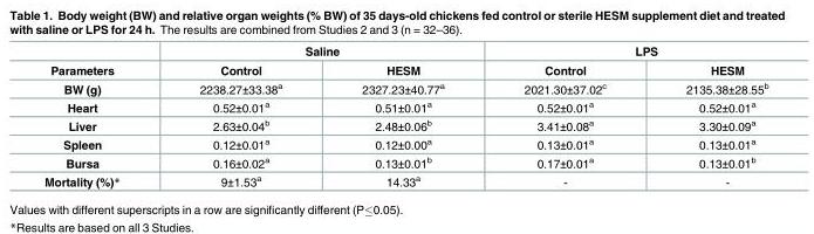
<table><thead><tr><td rowspan="2">Parameters</td><td colspan="2">Saline</td><td colspan="2">LPS</td></tr><tr><td>Control</td><td>HESM</td><td>Control</td><td>HESM</td></tr></thead><tbody><tr><td>BW (g)</td><td>2238.27±33.38<sup>a</sup></td><td>2327.23±40.77<sup>a</sup></td><td>2021.30±37.02<sup>c</sup></td><td>2135.38±28.55<sup>b</sup></td></tr><tr><td>Heart</td><td>0.52±0.01<sup>a</sup></td><td>0.51±0.01<sup>a</sup></td><td>0.52±0.01<sup>a</sup></td><td>0.52±0.01<sup>a</sup></td></tr><tr><td>Liver</td><td>2.63±0.04<sup>b</sup></td><td>2.48±0.06<sup>b</sup></td><td>3.41±0.08<sup>a</sup></td><td>3.30±0.09<sup>a</sup></td></tr><tr><td>Spleen</td><td>0.12±0.01<sup>a</sup></td><td>0.12±0.00<sup>a</sup></td><td>0.13±0.01<sup>a</sup></td><td>0.13±0.01<sup>a</sup></td></tr><tr><td>Bursa</td><td>0.16±0.02<sup>a</sup></td><td>0.13±0.01<sup>b</sup></td><td>0.17±0.01<sup>a</sup></td><td>0.13±0.01<sup>b</sup></td></tr><tr><td>Mortality (%)*</td><td>9±1.53<sup>a</sup></td><td>14.33<sup>a</sup></td><td>-</td><td>-</td></tr></tbody></table>